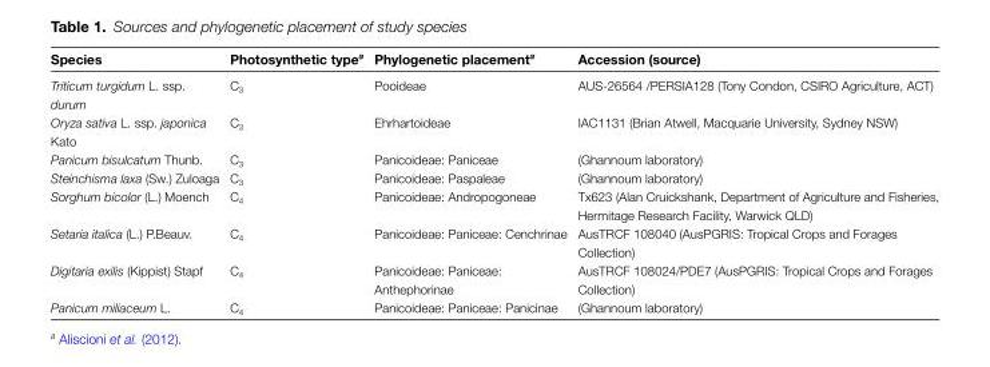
<table><thead><tr><td>Species</td><td>Photosynthetic type<sup>a</sup></td><td>Phylogenetic placement<sup>a</sup></td><td>Accession (source)</td></tr></thead><tbody><tr><td>Triticum turgidum L. ssp. durum</td><td>C<sub>3</sub></td><td>Pooideae</td><td>AUS-26564 /PERSIA128 (Tony Condon, CSIRO Agriculture, ACT)</td></tr><tr><td>Oryza sativa L. ssp. japonica Kato</td><td>C<sub>3</sub></td><td>Ehrhartoideae</td><td>IAC1131 (Brian Atwell, Macquarie University, Sydney NSW)</td></tr><tr><td>Panicum bisulcatum Thunb.</td><td>C<sub>3</sub></td><td>Panicoideae: Paniceae</td><td>(Ghannoum laboratory)</td></tr><tr><td>Steinchisma laxa (Sw.) Zuloaga</td><td>C<sub>3</sub></td><td>Panicoideae: Paspaleae</td><td>(Ghannoum laboratory)</td></tr><tr><td>Sorghum bicolor (L.) Moench</td><td>C<sub>4</sub></td><td>Panicoideae: Andropogoneae</td><td>Tx623 (Alan Cruickshank, Department of Agriculture and Fisheries, Hermitage Research Facility, Warwick QLD)</td></tr><tr><td>Setaria italica (L.) P.Beauv.</td><td>C<sub>4</sub></td><td>Panicoideae: Paniceae: Cenchrinae</td><td>AusTRCF 108040 (AusPGRIS: Tropical Crops and Forages Collection)</td></tr><tr><td>Digitaria exilis (Kippist) Stapf</td><td>C<sub>4</sub></td><td>Panicoideae: Paniceae: Anthephorinae</td><td>AusTRCF 108024/PDE7 (AusPGRIS: Tropical Crops and Forages Collection)</td></tr><tr><td>Panicum miliaceum L.</td><td>C<sub>4</sub></td><td>Panicoideae: Paniceae: Panicinae</td><td>(Ghannoum laboratory)</td></tr></tbody></table>